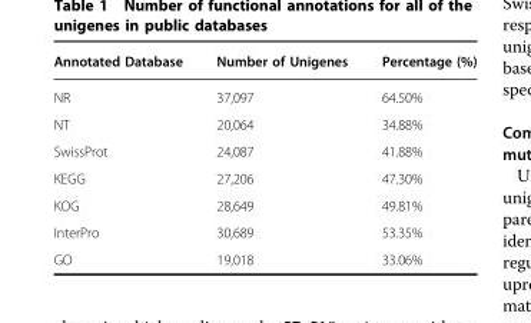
<table><thead><tr><td>Annotated Database</td><td>Number of Unigenes</td><td>Percentage (%)</td></tr></thead><tbody><tr><td>NR</td><td>37,097</td><td>64.50%</td></tr><tr><td>NT</td><td>20,064</td><td>34.88%</td></tr><tr><td>SwissProt</td><td>24,087</td><td>41.88%</td></tr><tr><td>KEGG</td><td>27,206</td><td>47.30%</td></tr><tr><td>KOG</td><td>28,649</td><td>49.81%</td></tr><tr><td>InterPro</td><td>30,689</td><td>53.35%</td></tr><tr><td>GO</td><td>19,018</td><td>33.06%</td></tr></tbody></table>